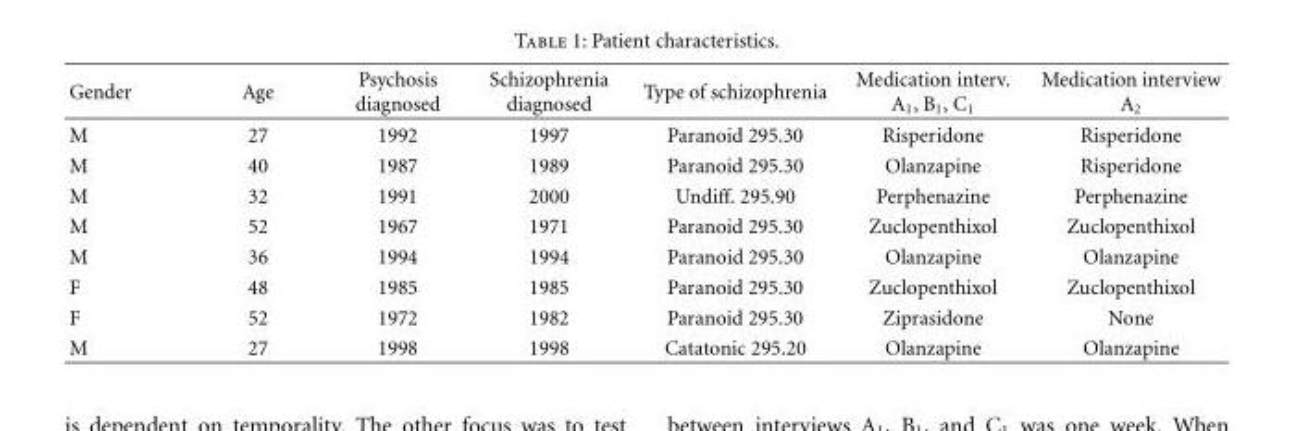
<table><thead><tr><td>Gender</td><td>Age</td><td>Psychosis diagnosed</td><td>Schizophrenia diagnosed</td><td>Type of schizophrenia</td><td>Medication interv. A<sub>1</sub>, B<sub>1</sub>, C<sub>1</sub></td><td>Medication interview A<sub>2</sub></td></tr></thead><tbody><tr><td>M</td><td>27</td><td>1992</td><td>1997</td><td>Paranoid 295.30</td><td>Risperidone</td><td>Risperidone</td></tr><tr><td>M</td><td>40</td><td>1987</td><td>1989</td><td>Paranoid 295.30</td><td>Olanzapine</td><td>Risperidone</td></tr><tr><td>M</td><td>32</td><td>1991</td><td>2000</td><td>Undiff. 295.90</td><td>Perphenazine</td><td>Perphenazine</td></tr><tr><td>M</td><td>52</td><td>1967</td><td>1971</td><td>Paranoid 295.30</td><td>Zuclopenthixol</td><td>Zuclopenthixol</td></tr><tr><td>M</td><td>36</td><td>1994</td><td>1994</td><td>Paranoid 295.30</td><td>Olanzapine</td><td>Olanzapine</td></tr><tr><td>F</td><td>48</td><td>1985</td><td>1985</td><td>Paranoid 295.30</td><td>Zuclopenthixol</td><td>Zuclopenthixol</td></tr><tr><td>F</td><td>52</td><td>1972</td><td>1982</td><td>Paranoid 295.30</td><td>Ziprasidone</td><td>None</td></tr><tr><td>M</td><td>27</td><td>1998</td><td>1998</td><td>Catatonic 295.20</td><td>Olanzapine</td><td>Olanzapine</td></tr></tbody></table>